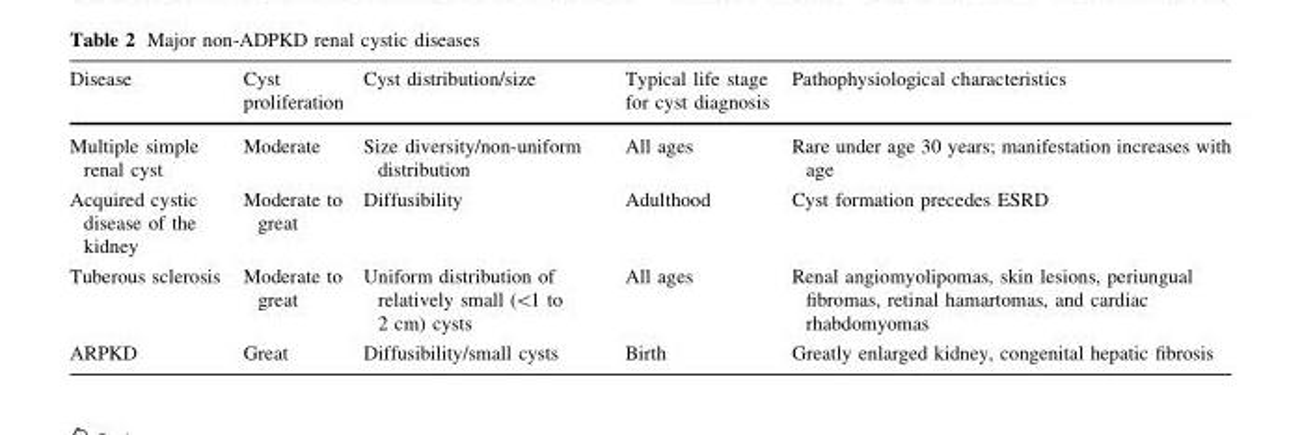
<table><thead><tr><td>Disease</td><td>Cyst proliferation</td><td>Cyst distribution/size</td><td>Typical life stage for cyst diagnosis</td><td>Pathophysiological characteristics</td></tr></thead><tbody><tr><td>Multiple simple renal cyst</td><td>Moderate</td><td>Size diversity/non-uniform distribution</td><td>All ages</td><td>Rare under age 30 years; manifestation increases with age</td></tr><tr><td>Acquired cystic disease of the kidney</td><td>Moderate to great</td><td>Diffusibility</td><td>Adulthood</td><td>Cyst formation precedes ESRD</td></tr><tr><td>Tuberous sclerosis</td><td>Moderate to great</td><td>Uniform distribution of relatively small (&lt;1 to 2 cm) cysts</td><td>All ages</td><td>Renal angiomyolipomas, skin lesions, periungual fibromas, retinal hamartomas, and cardiac rhabdomyomas</td></tr><tr><td>ARPKD</td><td>Great</td><td>Diffusibility/small cysts</td><td>Birth</td><td>Greatly enlarged kidney, congenital hepatic fibrosis</td></tr></tbody></table>